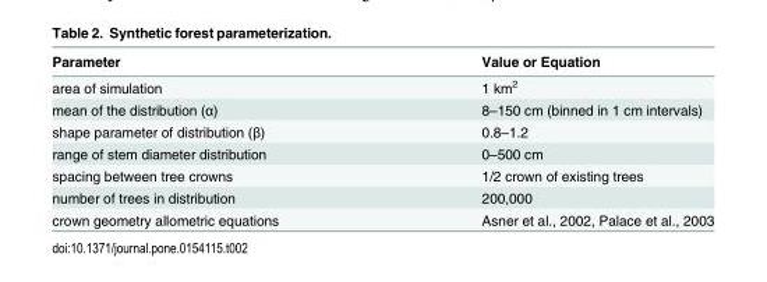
<table><thead><tr><td>Parameter</td><td>Value or Equation</td></tr></thead><tbody><tr><td>area of simulation</td><td>1 km<sup>2</sup></td></tr><tr><td>mean of the distribution (α)</td><td>8–150 cm (binned in 1 cm intervals)</td></tr><tr><td>shape parameter of distribution (β)</td><td>0.8–1.2</td></tr><tr><td>range of stem diameter distribution</td><td>0–500 cm</td></tr><tr><td>spacing between tree crowns</td><td>1/2 crown of existing trees</td></tr><tr><td>number of trees in distribution</td><td>200,000</td></tr><tr><td>crown geometry allometric equations</td><td>Asner et al., 2002, Palace et al., 2003</td></tr></tbody></table>